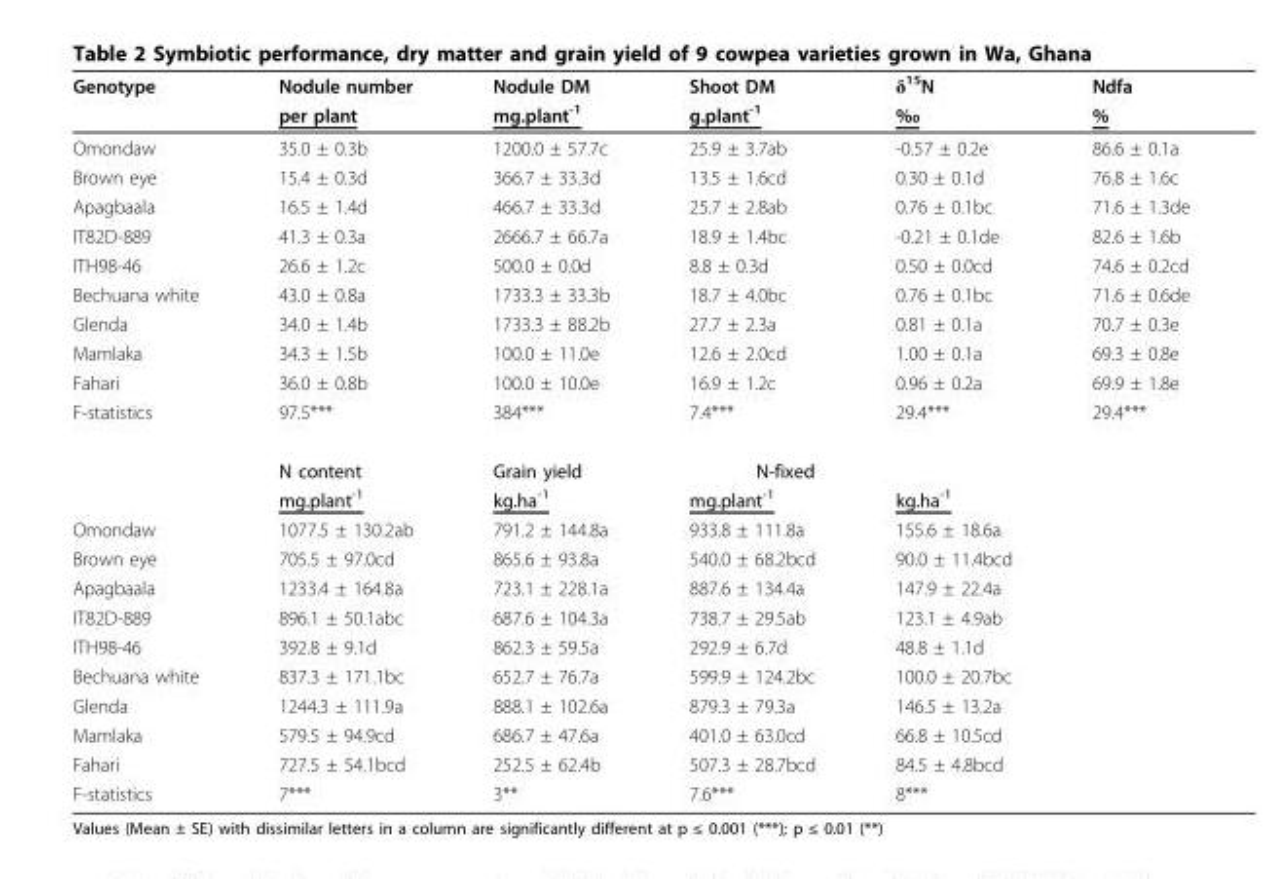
<table><thead><tr><td rowspan="2">Genotype</td><td rowspan="2">Nodule number per plant</td><td rowspan="2">Nodule DM mg.plant-1</td><td rowspan="2">Shoot DM g.plant<sup>-1</sup></td><td rowspan="2">δ<sup>15</sup>N ‰</td><td rowspan="2">Ndfa %</td></tr><tr></tr></thead><tbody><tr><td>Omondaw</td><td>35.0 ± 0.3b</td><td>1200.0 ± 57.7c</td><td>25.9 ± 3.7ab</td><td>-0.57 ± 0.2e</td><td>86.6 ± 0.1a</td></tr><tr><td>Brown eye</td><td>15.4 ± 0.3d</td><td>366.7 ± 33.3d</td><td>13.5 ± 1.6cd</td><td>0.30 ± 0.1d</td><td>76.8 ± 1.6c</td></tr><tr><td>Apagbaala</td><td>16.5 ± 1.4d</td><td>466.7 ± 33.3d</td><td>25.7 ± 2.8ab</td><td>0.76 ± 0.1bc</td><td>71.6 ± 1.3de</td></tr><tr><td>IT82D-889</td><td>41.3 ± 0.3a</td><td>2666.7 ± 66.7a</td><td>18.9 ± 1.4bc</td><td>-0.21 ± 0.1de</td><td>82.6 ± 1.6b</td></tr><tr><td>ITH98-46</td><td>26.6 ± 1.2c</td><td>500.0 ± 0.0d</td><td>8.8 ± 0.3d</td><td>0.50 ± 0.0cd</td><td>74.6 ± 0.2cd</td></tr><tr><td>Bechuana white</td><td>43.0 ± 0.8a</td><td>1733.3 ± 33.3b</td><td>18.7 ± 4.0bc</td><td>0.76 ± 0.1bc</td><td>71.6 ± 0.6de</td></tr><tr><td>Glenda</td><td>34.0 ± 1.4b</td><td>1733.3 ± 88.2b</td><td>27.7 ± 2.3a</td><td>0.81 ± 0.1a</td><td>70.7 ± 0.3e</td></tr><tr><td>Mamlaka</td><td>34.3 ± 1.5b</td><td>100.0 ± 11.0e</td><td>12.6 ± 2.0cd</td><td>1.00 ± 0.1a</td><td>69.3 ± 0.8e</td></tr><tr><td>Fahari</td><td>36.0 ± 0.8b</td><td>100.0 ± 10.0e</td><td>16.9 ± 1.2c</td><td>0.96 ± 0.2a</td><td>69.9 ± 1.8e</td></tr><tr><td rowspan="3">F-statistics</td><td>97.5***</td><td>384***</td><td>7.4***</td><td>29.4***</td><td>29.4***</td></tr><tr><td>N content</td><td>Grain yield</td><td>N-fixed</td><td></td><td></td></tr><tr><td>mg.plant-1</td><td>kg.ha<sup>-1</sup></td><td>mg.plant-1</td><td>kg.ha<sup>-1</sup></td><td></td></tr><tr><td>Omondaw</td><td>1077.5 ± 130.2ab</td><td>791.2 ± 144.8a</td><td>933.8 ± 111.8a</td><td>155.6 ± 18.6a</td><td></td></tr><tr><td>Brown eye</td><td>705.5 ± 97.0cd</td><td>865.6 ± 93.8a</td><td>540.0 ± 68.2bcd</td><td>90.0 ± 11.4bcd</td><td></td></tr><tr><td>Apagbaala</td><td>1233.4 ± 164.8a</td><td>723.1 ± 228.1a</td><td>887.6 ± 134.4a</td><td>147.9 ± 22.4a</td><td></td></tr><tr><td>IT82D-889</td><td>896.1 ± 50.1abc</td><td>687.6 ± 104.3a</td><td>738.7 ± 29.5ab</td><td>123.1 ± 4.9ab</td><td></td></tr><tr><td>ITH98-46</td><td>392.8 ± 9.1d</td><td>862.3 ± 59.5a</td><td>292.9 ± 6.7d</td><td>48.8 ± 1.1d</td><td></td></tr><tr><td>Bechuana white</td><td>837.3 ± 171.1bc</td><td>652.7 ± 76.7a</td><td>599.9 ± 124.2bc</td><td>100.0 ± 20.7bc</td><td></td></tr><tr><td>Glenda</td><td>1244.3 ± 111.9a</td><td>888.1 ± 102.6a</td><td>879.3 ± 79.3a</td><td>146.5 ± 13.2a</td><td></td></tr><tr><td>Mamlaka</td><td>579.5 ± 94.9cd</td><td>686.7 ± 47.6a</td><td>401.0 ± 63.0cd</td><td>66.8 ± 10.5cd</td><td></td></tr><tr><td>Fahari</td><td>727.5 ± 54.1bcd</td><td>252.5 ± 62.4b</td><td>507.3 ± 28.7bcd</td><td>84.5 ± 4.8bcd</td><td></td></tr><tr><td>F-statistics</td><td>7***</td><td>3**</td><td>7.6***</td><td>8***</td><td></td></tr></tbody></table>